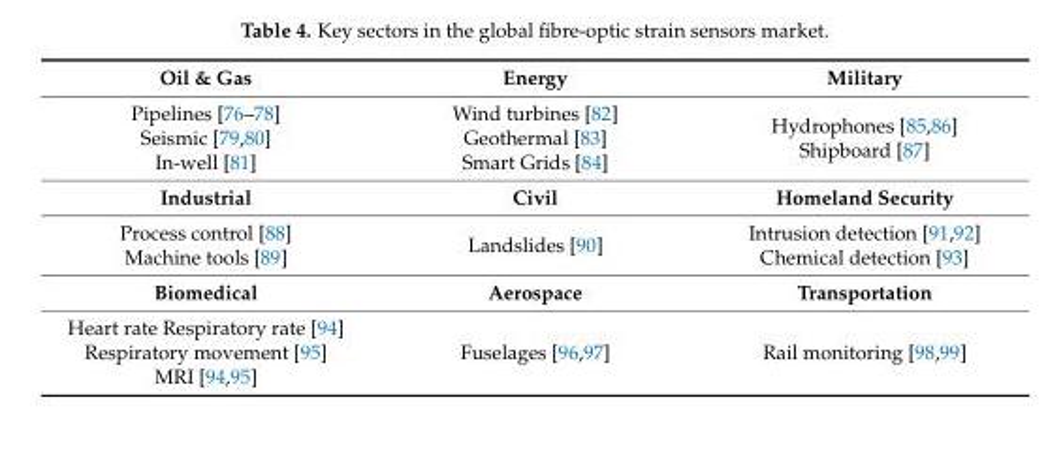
<table><tbody><tr><td>Oil &amp; Gas</td><td>Energy</td><td>Military</td></tr><tr><td>Pipelines [76–78] Seismic [79,80] In-well [81]</td><td>Wind turbines [82] Geothermal [83] Smart Grids [84]</td><td>Hydrophones [85,86] Shipboard [87]</td></tr><tr><td>Industrial</td><td>Civil</td><td>Homeland Security</td></tr><tr><td>Process control [88] Machine tools [89]</td><td>Landslides [90]</td><td>Intrusion detection [91,92] Chemical detection [93]</td></tr><tr><td>Biomedical</td><td>Aerospace</td><td>Transportation</td></tr><tr><td>Heart rate Respiratory rate [94] Respiratory movement [95] MRI [94,95]</td><td>Fuselages [96,97]</td><td>Rail monitoring [98,99]</td></tr></tbody></table>